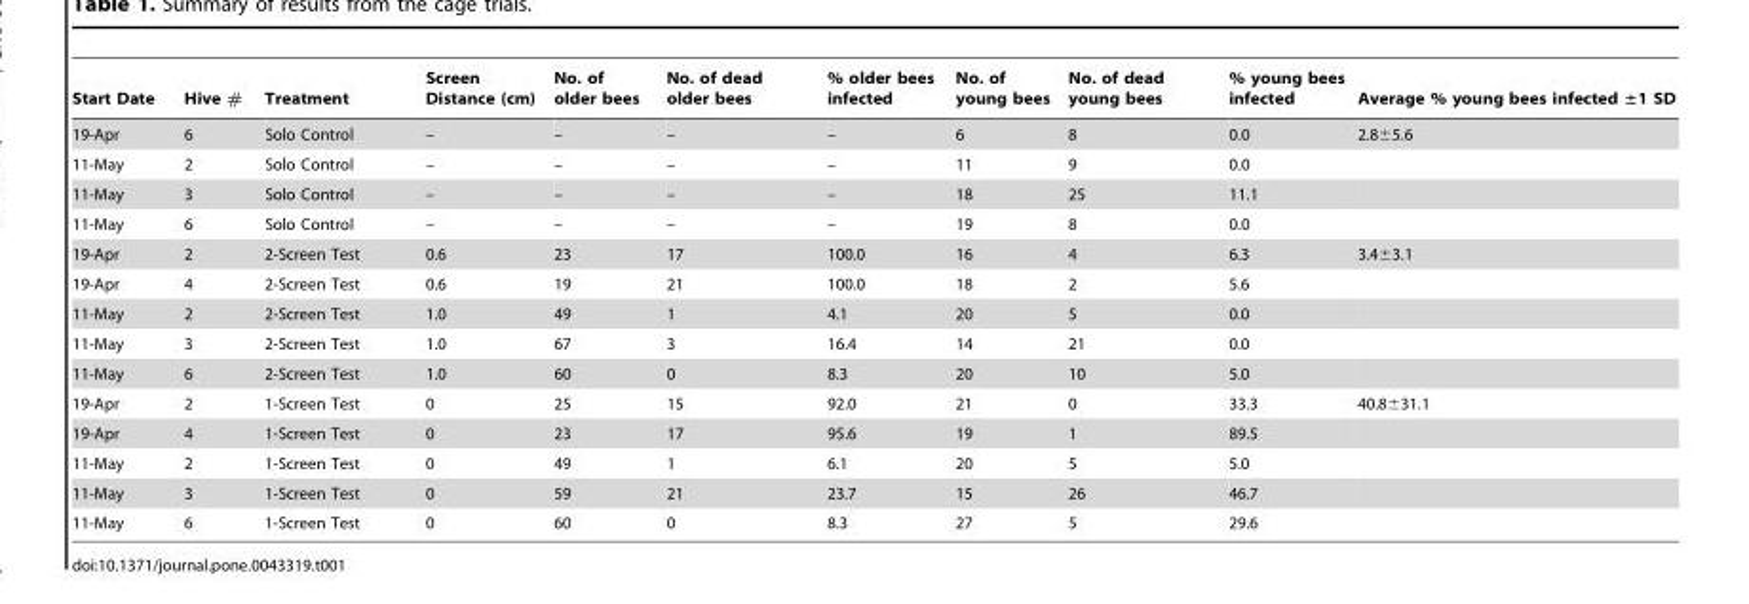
<table><thead><tr><td>Start Date</td><td>Hive #</td><td>Treatment</td><td>Screen Distance (cm)</td><td>No. of older bees</td><td>No. of dead older bees</td><td>% older bees infected</td><td>No. of young bees</td><td>No. of dead young bees</td><td>% young bees infected</td><td>Average % young bees infected ±1 SD</td></tr></thead><tbody><tr><td>19-Apr</td><td>6</td><td>Solo Control</td><td>–</td><td>–</td><td>–</td><td>–</td><td>6</td><td>8</td><td>0.0</td><td>2.8±5.6</td></tr><tr><td>11-May</td><td>2</td><td>Solo Control</td><td>–</td><td>–</td><td>–</td><td>–</td><td>11</td><td>9</td><td>0.0</td><td></td></tr><tr><td>11-May</td><td>3</td><td>Solo Control</td><td>–</td><td>–</td><td>–</td><td>–</td><td>18</td><td>25</td><td>11.1</td><td></td></tr><tr><td>11-May</td><td>6</td><td>Solo Control</td><td>–</td><td>–</td><td>–</td><td>–</td><td>19</td><td>8</td><td>0.0</td><td></td></tr><tr><td>19-Apr</td><td>2</td><td>2-Screen Test</td><td>0.6</td><td>23</td><td>17</td><td>100.0</td><td>16</td><td>4</td><td>6.3</td><td>3.4±3.1</td></tr><tr><td>19-Apr</td><td>4</td><td>2-Screen Test</td><td>0.6</td><td>19</td><td>21</td><td>100.0</td><td>18</td><td>2</td><td>5.6</td><td></td></tr><tr><td>11-May</td><td>2</td><td>2-Screen Test</td><td>1.0</td><td>49</td><td>1</td><td>4.1</td><td>20</td><td>5</td><td>0.0</td><td></td></tr><tr><td>11-May</td><td>3</td><td>2-Screen Test</td><td>1.0</td><td>67</td><td>3</td><td>16.4</td><td>14</td><td>21</td><td>0.0</td><td></td></tr><tr><td>11-May</td><td>6</td><td>2-Screen Test</td><td>1.0</td><td>60</td><td>0</td><td>8.3</td><td>20</td><td>10</td><td>5.0</td><td></td></tr><tr><td>19-Apr</td><td>2</td><td>1-Screen Test</td><td>0</td><td>25</td><td>15</td><td>92.0</td><td>21</td><td>0</td><td>33.3</td><td>40.8±31.1</td></tr><tr><td>19-Apr</td><td>4</td><td>1-Screen Test</td><td>0</td><td>23</td><td>17</td><td>95.6</td><td>19</td><td>1</td><td>89.5</td><td></td></tr><tr><td>11-May</td><td>2</td><td>1-Screen Test</td><td>0</td><td>49</td><td>1</td><td>6.1</td><td>20</td><td>5</td><td>5.0</td><td></td></tr><tr><td>11-May</td><td>3</td><td>1-Screen Test</td><td>0</td><td>59</td><td>21</td><td>23.7</td><td>15</td><td>26</td><td>46.7</td><td></td></tr><tr><td>11-May</td><td>6</td><td>1-Screen Test</td><td>0</td><td>60</td><td>0</td><td>8.3</td><td>27</td><td>5</td><td>29.6</td><td></td></tr></tbody></table>